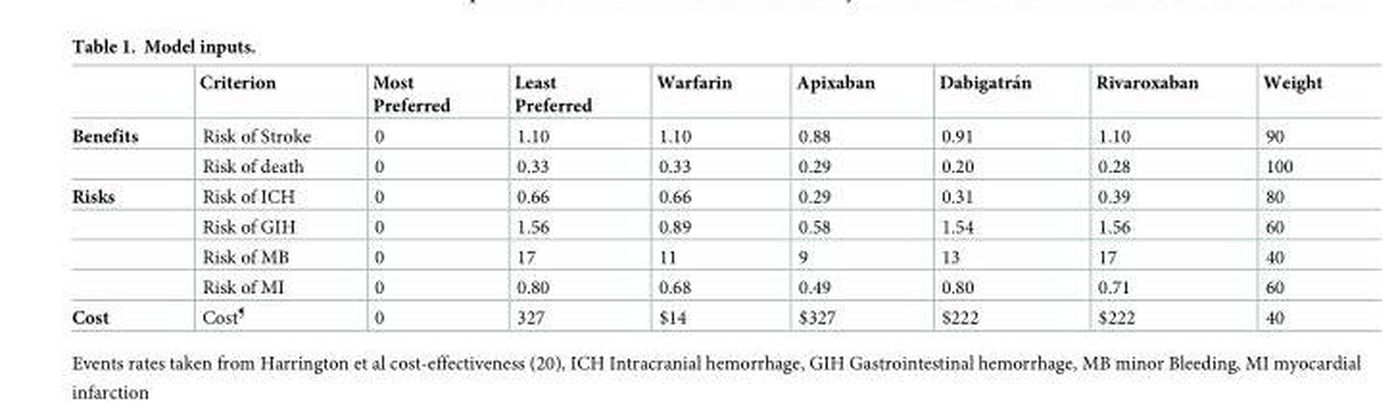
<table><thead><tr><td></td><td>Criterion</td><td>Most Preferred</td><td>Least Preferred</td><td>Warfarin</td><td>Apixaban</td><td>Dabigatra´n</td><td>Rivaroxaban</td><td>Weight</td></tr></thead><tbody><tr><td rowspan="2">Benefits</td><td>Risk of Stroke</td><td>0</td><td>1.10</td><td>1.10</td><td>0.88</td><td>0.91</td><td>1.10</td><td>90</td></tr><tr><td>Risk of death</td><td>0</td><td>0.33</td><td>0.33</td><td>0.29</td><td>0.20</td><td>0.28</td><td>100</td></tr><tr><td rowspan="4">Risks</td><td>Risk of ICH</td><td>0</td><td>0.66</td><td>0.66</td><td>0.29</td><td>0.31</td><td>0.39</td><td>80</td></tr><tr><td>Risk of GIH</td><td>0</td><td>1.56</td><td>0.89</td><td>0.58</td><td>1.54</td><td>1.56</td><td>60</td></tr><tr><td>Risk of MB</td><td>0</td><td>17</td><td>11</td><td>9</td><td>13</td><td>17</td><td>40</td></tr><tr><td>Risk of MI</td><td>0</td><td>0.80</td><td>0.68</td><td>0.49</td><td>0.80</td><td>0.71</td><td>60</td></tr><tr><td>Cost</td><td>Cost<sup>¶</sup></td><td>0</td><td>327</td><td>$14</td><td>$327</td><td>$222</td><td>$222</td><td>40</td></tr></tbody></table>